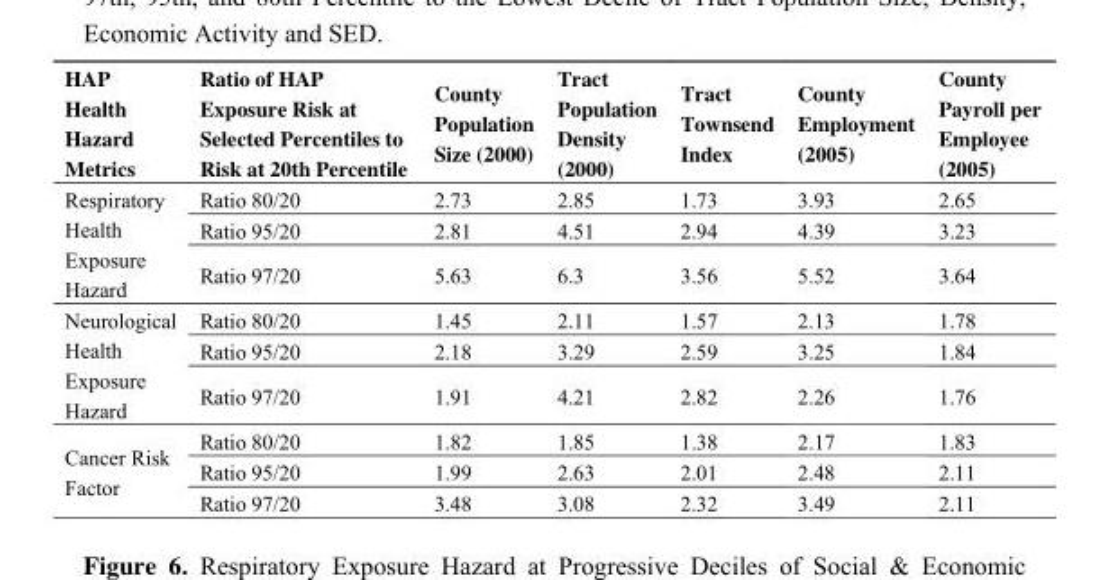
<table><thead><tr><td>HAP Health Hazard Metrics</td><td>Ratio of HAP Exposure Risk at Selected Percentiles to Risk at 20th Percentile</td><td>County Population Size (2000)</td><td>Tract Population Density (2000)</td><td>Tract Townsend Index</td><td>County Employment (2005)</td><td>County Payroll per Employee (2005)</td></tr></thead><tbody><tr><td rowspan="3">Respiratory Health Exposure Hazard</td><td>Ratio 80/20</td><td>2.73</td><td>2.85</td><td>1.73</td><td>3.93</td><td>2.65</td></tr><tr><td>Ratio 95/20</td><td>2.81</td><td>4.51</td><td>2.94</td><td>4.39</td><td>3.23</td></tr><tr><td>Ratio 97/20</td><td>5.63</td><td>6.3</td><td>3.56</td><td>5.52</td><td>3.64</td></tr><tr><td rowspan="3">Neurological Health Exposure Hazard</td><td>Ratio 80/20</td><td>1.45</td><td>2.11</td><td>1.57</td><td>2.13</td><td>1.78</td></tr><tr><td>Ratio 95/20</td><td>2.18</td><td>3.29</td><td>2.59</td><td>3.25</td><td>1.84</td></tr><tr><td>Ratio 97/20</td><td>1.91</td><td>4.21</td><td>2.82</td><td>2.26</td><td>1.76</td></tr><tr><td rowspan="3">Cancer Risk Factor</td><td>Ratio 80/20</td><td>1.82</td><td>1.85</td><td>1.38</td><td>2.17</td><td>1.83</td></tr><tr><td>Ratio 95/20</td><td>1.99</td><td>2.63</td><td>2.01</td><td>2.48</td><td>2.11</td></tr><tr><td>Ratio 97/20</td><td>3.48</td><td>3.08</td><td>2.32</td><td>3.49</td><td>2.11</td></tr></tbody></table>